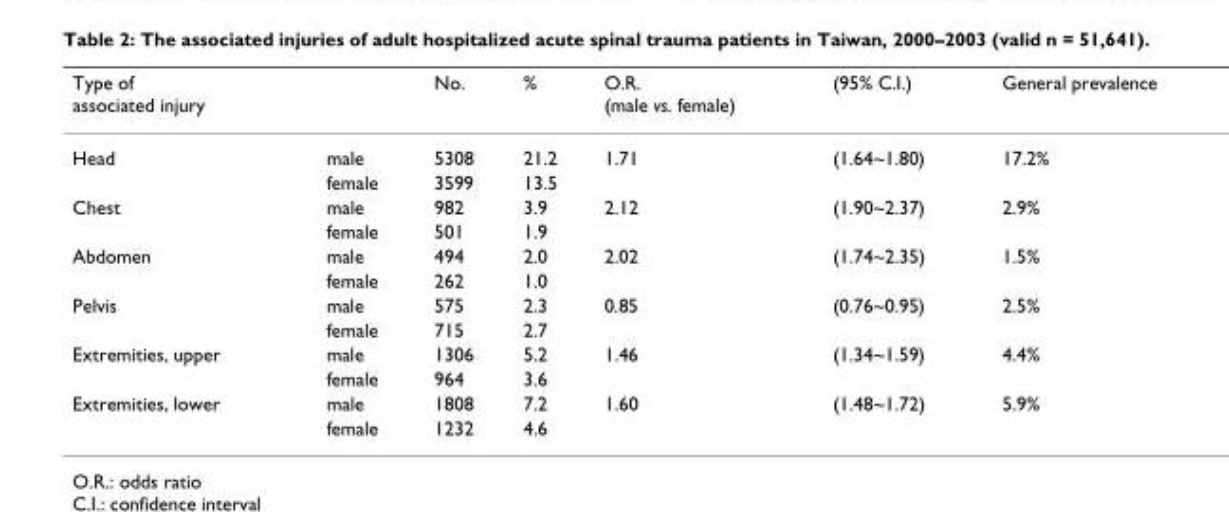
<table><thead><tr><td>Type of associated injury</td><td></td><td>No.</td><td>%</td><td>O.R. (male vs. female)</td><td>(95% C.I.)</td><td>General prevalence</td></tr></thead><tbody><tr><td rowspan="2">Head</td><td>male</td><td>5308</td><td>21.2</td><td>1.71</td><td>(1.64~1.80)</td><td>17.2%</td></tr><tr><td>female</td><td>3599</td><td>13.5</td><td></td><td></td><td></td></tr><tr><td rowspan="2">Chest</td><td>male</td><td>982</td><td>3.9</td><td>2.12</td><td>(1.90~2.37)</td><td>2.9%</td></tr><tr><td>female</td><td>501</td><td>1.9</td><td></td><td></td><td></td></tr><tr><td rowspan="2">Abdomen</td><td>male</td><td>494</td><td>2.0</td><td>2.02</td><td>(1.74~2.35)</td><td>1.5%</td></tr><tr><td>female</td><td>262</td><td>1.0</td><td></td><td></td><td></td></tr><tr><td rowspan="2">Pelvis</td><td>male</td><td>575</td><td>2.3</td><td>0.85</td><td>(0.76~0.95)</td><td>2.5%</td></tr><tr><td>female</td><td>715</td><td>2.7</td><td></td><td></td><td></td></tr><tr><td rowspan="2">Extremities, upper</td><td>male</td><td>1306</td><td>5.2</td><td>1.46</td><td>(1.34~1.59)</td><td>4.4%</td></tr><tr><td>female</td><td>964</td><td>3.6</td><td></td><td></td><td></td></tr><tr><td rowspan="2">Extremities, lower</td><td>male</td><td>1808</td><td>7.2</td><td>1.60</td><td>(1.48~1.72)</td><td>5.9%</td></tr><tr><td>female</td><td>1232</td><td>4.6</td><td></td><td></td><td></td></tr></tbody></table>